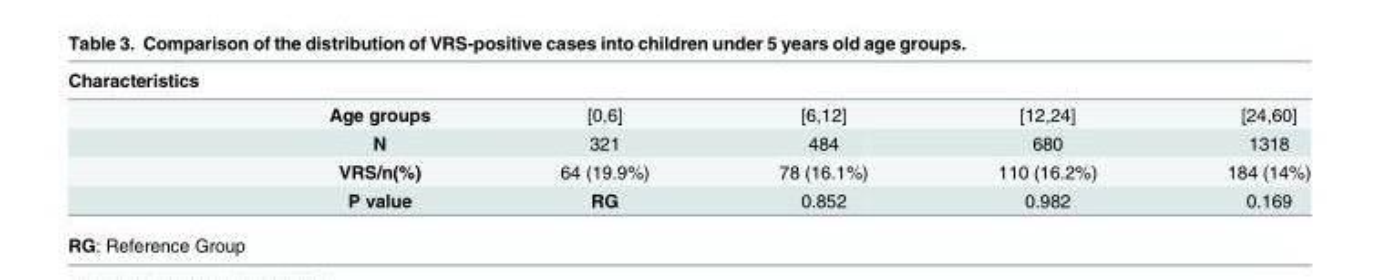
<table><thead><tr><td>Characteristics</td><td></td><td></td><td></td><td></td><td></td></tr></thead><tbody><tr><td></td><td>Age groups</td><td>[0,6]</td><td>[6,12]</td><td>[12,24]</td><td>[24,60]</td></tr><tr><td></td><td>N</td><td>321</td><td>484</td><td>680</td><td>1318</td></tr><tr><td></td><td>VRS/n(%)</td><td>64 (19.9%)</td><td>78 (16.1%)</td><td>110 (16.2%)</td><td>184 (14%)</td></tr><tr><td></td><td>P value</td><td>RG</td><td>0.852</td><td>0.982</td><td>0.169</td></tr></tbody></table>